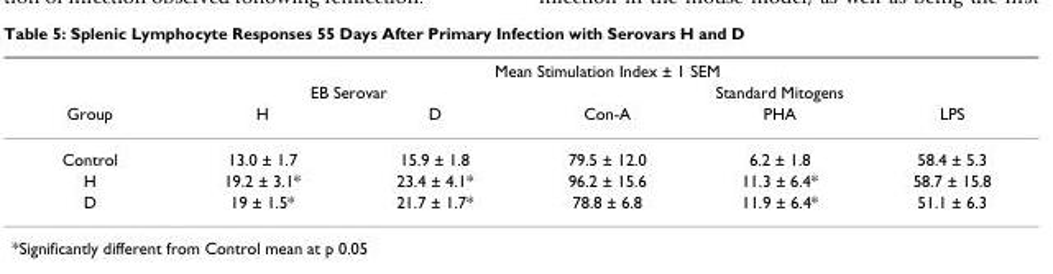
<table><thead><tr><td rowspan="3">Group</td><td colspan="5">Mean Stimulation Index ± 1 SEM</td></tr><tr><td colspan="2">EB Serovar</td><td colspan="3">Standard Mitogens</td></tr><tr><td>H</td><td>D</td><td>Con-A</td><td>PHA</td><td>LPS</td></tr></thead><tbody><tr><td>Control</td><td>13.0 ± 1.7</td><td>15.9 ± 1.8</td><td>79.5 ± 12.0</td><td>6.2 ± 1.8</td><td>58.4 ± 5.3</td></tr><tr><td>H</td><td>19.2 ± 3.1*</td><td>23.4 ± 4.1*</td><td>96.2 ± 15.6</td><td>11.3 ± 6.4*</td><td>58.7 ± 15.8</td></tr><tr><td>D</td><td>19 ± 1.5*</td><td>21.7 ± 1.7*</td><td>78.8 ± 6.8</td><td>11.9 ± 6.4*</td><td>51.1 ± 6.3</td></tr></tbody></table>